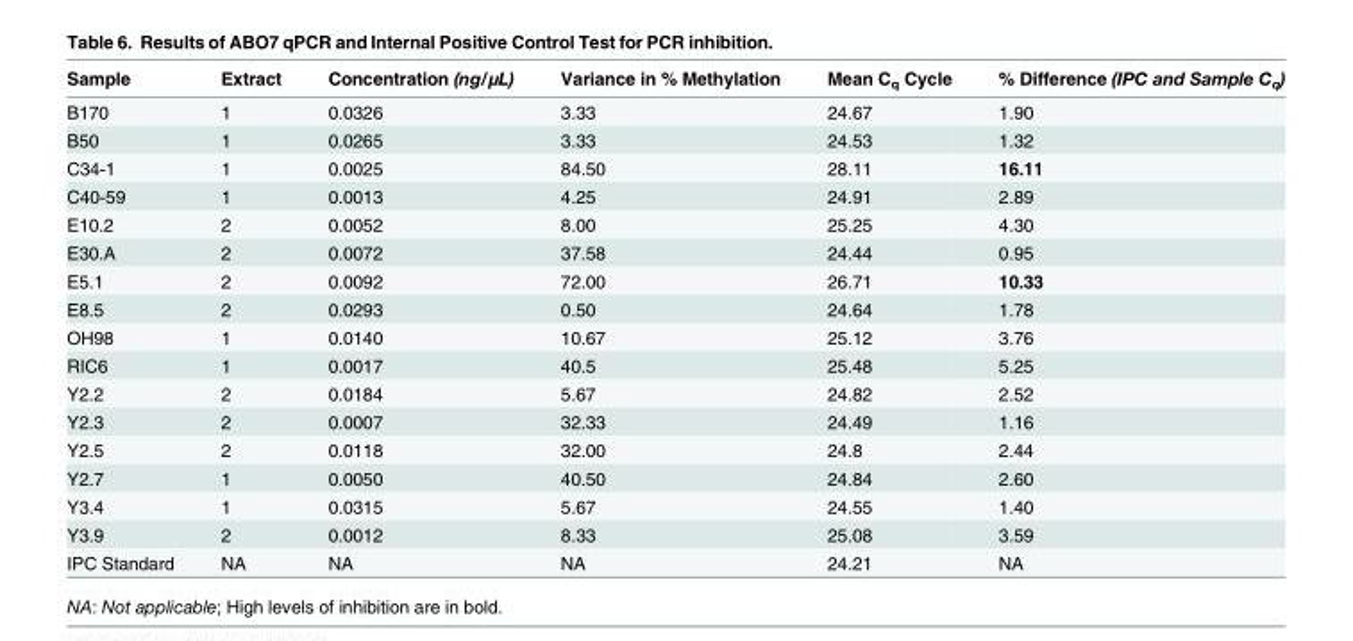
<table><thead><tr><td>Sample</td><td>Extract</td><td>Concentration (ng/μL)</td><td>Variance in % Methylation</td><td>Mean C<sub>q</sub> Cycle</td><td>% Difference (IPC and Sample C<sub>q</sub>)</td></tr></thead><tbody><tr><td>B170</td><td>1</td><td>0.0326</td><td>3.33</td><td>24.67</td><td>1.90</td></tr><tr><td>B50</td><td>1</td><td>0.0265</td><td>3.33</td><td>24.53</td><td>1.32</td></tr><tr><td>C34-1</td><td>1</td><td>0.0025</td><td>84.50</td><td>28.11</td><td>16.11</td></tr><tr><td>C40-59</td><td>1</td><td>0.0013</td><td>4.25</td><td>24.91</td><td>2.89</td></tr><tr><td>E10.2</td><td>2</td><td>0.0052</td><td>8.00</td><td>25.25</td><td>4.30</td></tr><tr><td>E30.A</td><td>2</td><td>0.0072</td><td>37.58</td><td>24.44</td><td>0.95</td></tr><tr><td>E5.1</td><td>2</td><td>0.0092</td><td>72.00</td><td>26.71</td><td>10.33</td></tr><tr><td>E8.5</td><td>2</td><td>0.0293</td><td>0.50</td><td>24.64</td><td>1.78</td></tr><tr><td>OH98</td><td>1</td><td>0.0140</td><td>10.67</td><td>25.12</td><td>3.76</td></tr><tr><td>RIC6</td><td>1</td><td>0.0017</td><td>40.5</td><td>25.48</td><td>5.25</td></tr><tr><td>Y2.2</td><td>2</td><td>0.0184</td><td>5.67</td><td>24.82</td><td>2.52</td></tr><tr><td>Y2.3</td><td>2</td><td>0.0007</td><td>32.33</td><td>24.49</td><td>1.16</td></tr><tr><td>Y2.5</td><td>2</td><td>0.0118</td><td>32.00</td><td>24.8</td><td>2.44</td></tr><tr><td>Y2.7</td><td>1</td><td>0.0050</td><td>40.50</td><td>24.84</td><td>2.60</td></tr><tr><td>Y3.4</td><td>1</td><td>0.0315</td><td>5.67</td><td>24.55</td><td>1.40</td></tr><tr><td>Y3.9</td><td>2</td><td>0.0012</td><td>8.33</td><td>25.08</td><td>3.59</td></tr><tr><td>IPC Standard</td><td>NA</td><td>NA</td><td>NA</td><td>24.21</td><td>NA</td></tr></tbody></table>